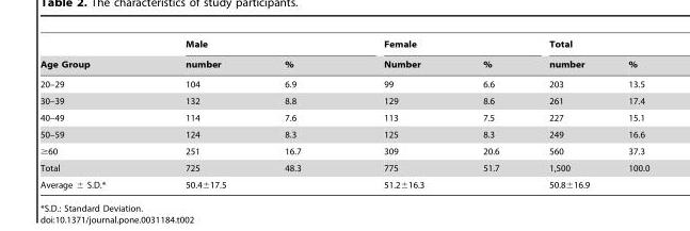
<table><thead><tr><td rowspan="2">Age Group</td><td colspan="2">Male</td><td colspan="2">Female</td><td colspan="2">Total</td></tr><tr><td>number</td><td>%</td><td>Number</td><td>%</td><td>number</td><td>%</td></tr></thead><tbody><tr><td>20–29</td><td>104</td><td>6.9</td><td>99</td><td>6.6</td><td>203</td><td>13.5</td></tr><tr><td>30–39</td><td>132</td><td>8.8</td><td>129</td><td>8.6</td><td>261</td><td>17.4</td></tr><tr><td>40–49</td><td>114</td><td>7.6</td><td>113</td><td>7.5</td><td>227</td><td>15.1</td></tr><tr><td>50–59</td><td>124</td><td>8.3</td><td>125</td><td>8.3</td><td>249</td><td>16.6</td></tr><tr><td>≥60</td><td>251</td><td>16.7</td><td>309</td><td>20.6</td><td>560</td><td>37.3</td></tr><tr><td>Total</td><td>725</td><td>48.3</td><td>775</td><td>51.7</td><td>1,500</td><td>100.0</td></tr><tr><td>Average ± S.D.*</td><td colspan="2">50.4±17.5</td><td colspan="2">51.2±16.3</td><td colspan="2">50.8±16.9</td></tr></tbody></table>